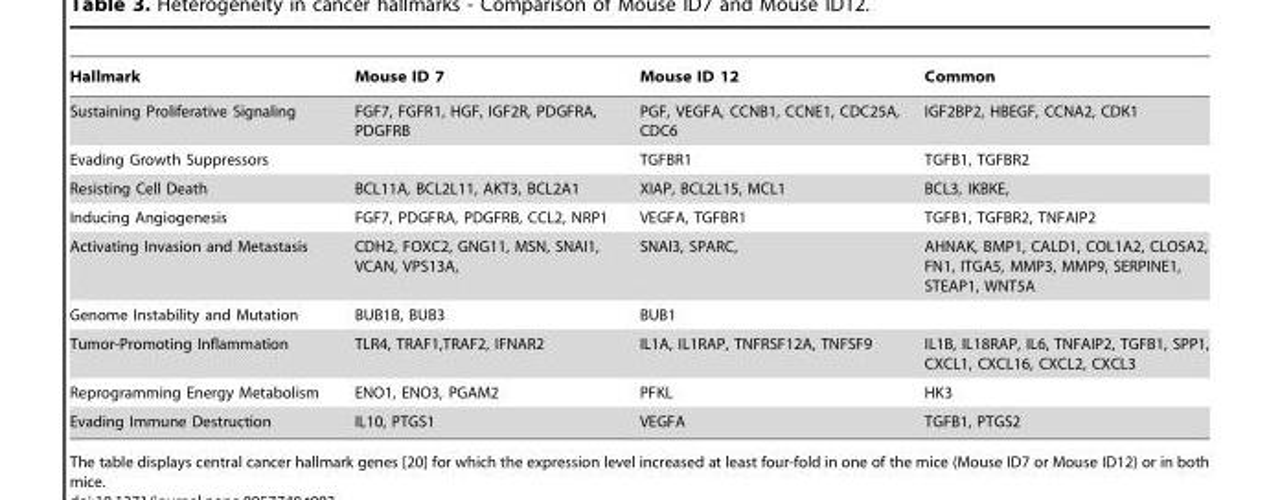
<table><thead><tr><td>Hallmark</td><td>Mouse ID 7</td><td>Mouse ID 12</td><td>Common</td></tr></thead><tbody><tr><td>Sustaining Proliferative Signaling</td><td>FGF7, FGFR1, HGF, IGF2R, PDGFRA, PDGFRB</td><td>PGF, VEGFA, CCNB1, CCNE1, CDC25A, CDC6</td><td>IGF2BP2, HBEGF, CCNA2, CDK1</td></tr><tr><td>Evading Growth Suppressors</td><td></td><td>TGFBR1</td><td>TGFB1, TGFBR2</td></tr><tr><td>Resisting Cell Death</td><td>BCL11A, BCL2L11, AKT3, BCL2A1</td><td>XIAP, BCL2L15, MCL1</td><td>BCL3, IKBKE,</td></tr><tr><td>Inducing Angiogenesis</td><td>FGF7, PDGFRA, PDGFRB, CCL2, NRP1</td><td>VEGFA, TGFBR1</td><td>TGFB1, TGFBR2, TNFAIP2</td></tr><tr><td>Activating Invasion and Metastasis</td><td>CDH2, FOXC2, GNG11, MSN, SNAI1, VCAN, VPS13A,</td><td>SNAI3, SPARC,</td><td>AHNAK, BMP1, CALD1, COL1A2, CLO5A2, FN1, ITGA5, MMP3, MMP9, SERPINE1, STEAP1, WNT5A</td></tr><tr><td>Genome Instability and Mutation</td><td>BUB1B, BUB3</td><td>BUB1</td><td></td></tr><tr><td>Tumor-Promoting Inflammation</td><td>TLR4, TRAF1,TRAF2, IFNAR2</td><td>IL1A, IL1RAP, TNFRSF12A, TNFSF9</td><td>IL1B, IL18RAP, IL6, TNFAIP2, TGFB1, SPP1, CXCL1, CXCL16, CXCL2, CXCL3</td></tr><tr><td>Reprogramming Energy Metabolism</td><td>ENO1, ENO3, PGAM2</td><td>PFKL</td><td>HK3</td></tr><tr><td>Evading Immune Destruction</td><td>IL10, PTGS1</td><td>VEGFA</td><td>TGFB1, PTGS2</td></tr></tbody></table>